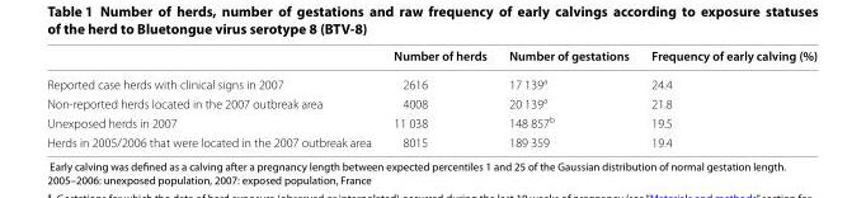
<table><thead><tr><td></td><td>Number of herds</td><td>Number of gestations</td><td>Frequency of early calving (%)</td></tr></thead><tbody><tr><td>Reported case herds with clinical signs in 2007</td><td>2616</td><td>17 139<sup>a</sup></td><td>24.4</td></tr><tr><td>Non-reported herds located in the 2007 outbreak area</td><td>4008</td><td>20 139<sup>a</sup></td><td>21.8</td></tr><tr><td>Unexposed herds in 2007</td><td>11 038</td><td>148 857<sup>b</sup></td><td>19.5</td></tr><tr><td>Herds in 2005/2006 that were located in the 2007 outbreak area</td><td>8015</td><td>189 359</td><td>19.4</td></tr></tbody></table>